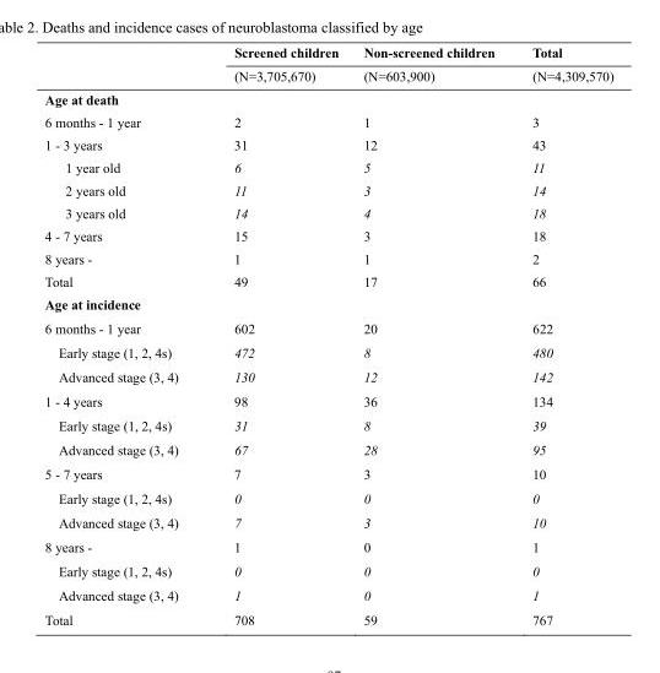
<table><thead><tr><td rowspan="2"></td><td rowspan="2">Screened children (N=3,705,670)</td><td rowspan="2">Non-screened children (N=603,900)</td><td rowspan="2">Total (N=4,309,570)</td></tr><tr></tr></thead><tbody><tr><td colspan="4">Age at death</td></tr><tr><td>6 months - 1 year</td><td>2</td><td>1</td><td>3</td></tr><tr><td>1 - 3 years</td><td>31</td><td>12</td><td>43</td></tr><tr><td>1 year old</td><td>6</td><td>5</td><td>11</td></tr><tr><td>2 years old</td><td>11</td><td>3</td><td>14</td></tr><tr><td>3 years old</td><td>14</td><td>4</td><td>18</td></tr><tr><td>4 - 7 years</td><td>15</td><td>3</td><td>18</td></tr><tr><td>8 years -</td><td>1</td><td>1</td><td>2</td></tr><tr><td>Total</td><td>49</td><td>17</td><td>66</td></tr><tr><td colspan="4">Age at incidence</td></tr><tr><td>6 months - 1 year</td><td>602</td><td>20</td><td>622</td></tr><tr><td>Early stage (1, 2, 4s)</td><td>472</td><td>8</td><td>480</td></tr><tr><td>Advanced stage (3, 4)</td><td>130</td><td>12</td><td>142</td></tr><tr><td>1 - 4 years</td><td>98</td><td>36</td><td>134</td></tr><tr><td>Early stage (1, 2, 4s)</td><td>31</td><td>8</td><td>39</td></tr><tr><td>Advanced stage (3, 4)</td><td>67</td><td>28</td><td>95</td></tr><tr><td>5 - 7 years</td><td>7</td><td>3</td><td>10</td></tr><tr><td>Early stage (1, 2, 4s)</td><td>0</td><td>0</td><td>0</td></tr><tr><td>Advanced stage (3, 4)</td><td>7</td><td>3</td><td>10</td></tr><tr><td>8 years -</td><td>1</td><td>0</td><td>1</td></tr><tr><td>Early stage (1, 2, 4s)</td><td>0</td><td>0</td><td>0</td></tr><tr><td>Advanced stage (3, 4)</td><td>1</td><td>0</td><td>1</td></tr><tr><td>Total</td><td>708</td><td>59</td><td>767</td></tr></tbody></table>